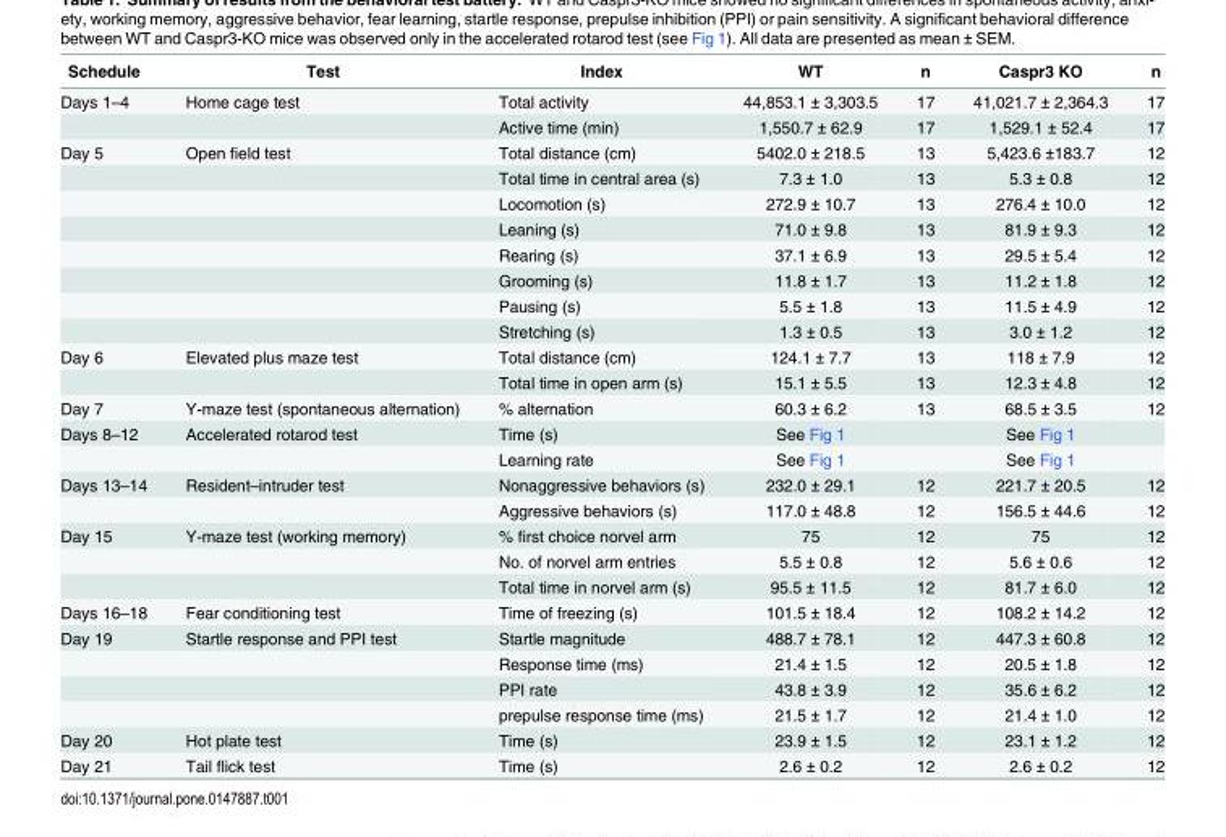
<table><thead><tr><td>Schedule</td><td>Test</td><td>Index</td><td>WT</td><td>n</td><td>Caspr3 KO</td><td>n</td></tr></thead><tbody><tr><td rowspan="2">Days 1–4</td><td>Home cage test</td><td>Total activity</td><td>44,853.1 ± 3,303.5</td><td>17</td><td>41,021.7 ± 2,364.3</td><td>17</td></tr><tr><td></td><td>Active time (min)</td><td>1,550.7 ± 62.9</td><td>17</td><td>1,529.1 ± 52.4</td><td>17</td></tr><tr><td rowspan="8">Day 5</td><td>Open field test</td><td>Total distance (cm)</td><td>5402.0 ± 218.5</td><td>13</td><td>5,423.6 ±183.7</td><td>12</td></tr><tr><td></td><td>Total time in central area (s)</td><td>7.3 ± 1.0</td><td>13</td><td>5.3 ± 0.8</td><td>12</td></tr><tr><td></td><td>Locomotion (s)</td><td>272.9 ± 10.7</td><td>13</td><td>276.4 ± 10.0</td><td>12</td></tr><tr><td></td><td>Leaning (s)</td><td>71.0 ± 9.8</td><td>13</td><td>81.9 ± 9.3</td><td>12</td></tr><tr><td></td><td>Rearing (s)</td><td>37.1 ± 6.9</td><td>13</td><td>29.5 ± 5.4</td><td>12</td></tr><tr><td></td><td>Grooming (s)</td><td>11.8 ± 1.7</td><td>13</td><td>11.2 ± 1.8</td><td>12</td></tr><tr><td></td><td>Pausing (s)</td><td>5.5 ± 1.8</td><td>13</td><td>11.5 ± 4.9</td><td>12</td></tr><tr><td></td><td>Stretching (s)</td><td>1.3 ± 0.5</td><td>13</td><td>3.0 ± 1.2</td><td>12</td></tr><tr><td rowspan="2">Day 6</td><td>Elevated plus maze test</td><td>Total distance (cm)</td><td>124.1 ± 7.7</td><td>13</td><td>118 ± 7.9</td><td>12</td></tr><tr><td></td><td>Total time in open arm (s)</td><td>15.1 ± 5.5</td><td>13</td><td>12.3 ± 4.8</td><td>12</td></tr><tr><td>Day 7</td><td>Y-maze test (spontaneous alternation)</td><td>% alternation</td><td>60.3 ± 6.2</td><td>13</td><td>68.5 ± 3.5</td><td>12</td></tr><tr><td rowspan="2">Days 8–12</td><td>Accelerated rotarod test</td><td>Time (s)</td><td>See Fig 1</td><td></td><td>See Fig 1</td><td></td></tr><tr><td></td><td>Learning rate</td><td>See Fig 1</td><td></td><td>See Fig 1</td><td></td></tr><tr><td rowspan="2">Days 13–14</td><td>Resident–intruder test</td><td>Nonaggressive behaviors (s)</td><td>232.0 ± 29.1</td><td>12</td><td>221.7 ± 20.5</td><td>12</td></tr><tr><td></td><td>Aggressive behaviors (s)</td><td>117.0 ± 48.8</td><td>12</td><td>156.5 ± 44.6</td><td>12</td></tr><tr><td rowspan="3">Day 15</td><td>Y-maze test (working memory)</td><td>% first choice norvel arm</td><td>75</td><td>12</td><td>75</td><td>12</td></tr><tr><td></td><td>No. of norvel arm entries</td><td>5.5 ± 0.8</td><td>12</td><td>5.6 ± 0.6</td><td>12</td></tr><tr><td></td><td>Total time in norvel arm (s)</td><td>95.5 ± 11.5</td><td>12</td><td>81.7 ± 6.0</td><td>12</td></tr><tr><td>Days 16–18</td><td>Fear conditioning test</td><td>Time of freezing (s)</td><td>101.5 ± 18.4</td><td>12</td><td>108.2 ± 14.2</td><td>12</td></tr><tr><td rowspan="4">Day 19</td><td>Startle response and PPI test</td><td>Startle magnitude</td><td>488.7 ± 78.1</td><td>12</td><td>447.3 ± 60.8</td><td>12</td></tr><tr><td></td><td>Response time (ms)</td><td>21.4 ± 1.5</td><td>12</td><td>20.5 ± 1.8</td><td>12</td></tr><tr><td></td><td>PPI rate</td><td>43.8 ± 3.9</td><td>12</td><td>35.6 ± 6.2</td><td>12</td></tr><tr><td></td><td>prepulse response time (ms)</td><td>21.5 ± 1.7</td><td>12</td><td>21.4 ± 1.0</td><td>12</td></tr><tr><td>Day 20</td><td>Hot plate test</td><td>Time (s)</td><td>23.9 ± 1.5</td><td>12</td><td>23.1 ± 1.2</td><td>12</td></tr><tr><td>Day 21</td><td>Tail flick test</td><td>Time (s)</td><td>2.6 ± 0.2</td><td>12</td><td>2.6 ± 0.2</td><td>12</td></tr></tbody></table>